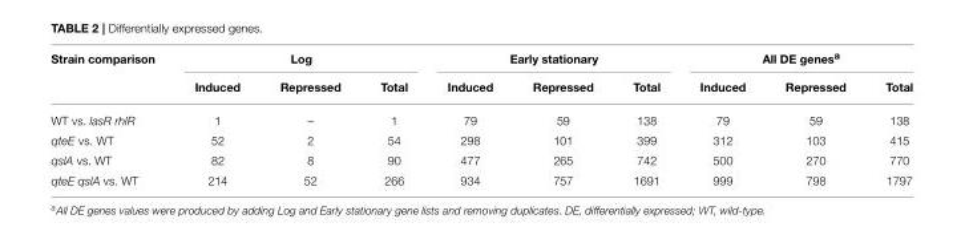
<table><thead><tr><td rowspan="2">Strain comparison</td><td colspan="3">Log</td><td colspan="3">Early stationary</td><td colspan="3">All DE genes<sup>a</sup></td></tr><tr><td>Induced</td><td>Repressed</td><td>Total</td><td>Induced</td><td>Repressed</td><td>Total</td><td>Induced</td><td>Repressed</td><td>Total</td></tr></thead><tbody><tr><td>WT vs. lasR rhlR</td><td>1</td><td>–</td><td>1</td><td>79</td><td>59</td><td>138</td><td>79</td><td>59</td><td>138</td></tr><tr><td>qteE vs. WT</td><td>52</td><td>2</td><td>54</td><td>298</td><td>101</td><td>399</td><td>312</td><td>103</td><td>415</td></tr><tr><td>qslA vs. WT</td><td>82</td><td>8</td><td>90</td><td>477</td><td>265</td><td>742</td><td>500</td><td>270</td><td>770</td></tr><tr><td>qteE qslA vs. WT</td><td>214</td><td>52</td><td>266</td><td>934</td><td>757</td><td>1691</td><td>999</td><td>798</td><td>1797</td></tr></tbody></table>